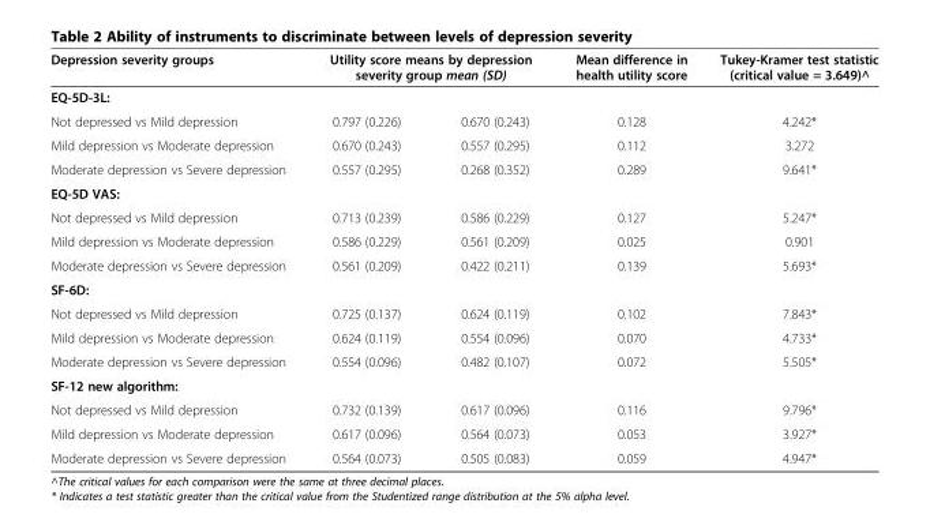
<table><thead><tr><td rowspan="2">Depression severity groups EQ-5D-3L:</td><td colspan="2">Utility score means by depression severity group mean (SD)</td><td rowspan="2">Mean difference in health utility score</td><td rowspan="2">Tukey-Kramer test statistic (critical value = 3.649)^</td></tr><tr><td></td><td></td></tr></thead><tbody><tr><td>Not depressed vs Mild depression</td><td>0.797 (0.226)</td><td>0.670 (0.243)</td><td>0.128</td><td>4.242*</td></tr><tr><td>Mild depression vs Moderate depression</td><td>0.670 (0.243)</td><td>0.557 (0.295)</td><td>0.112</td><td>3.272</td></tr><tr><td>Moderate depression vs Severe depression</td><td>0.557 (0.295)</td><td>0.268 (0.352)</td><td>0.289</td><td>9.641*</td></tr><tr><td colspan="5">EQ-5D VAS:</td></tr><tr><td>Not depressed vs Mild depression</td><td>0.713 (0.239)</td><td>0.586 (0.229)</td><td>0.127</td><td>5.247*</td></tr><tr><td>Mild depression vs Moderate depression</td><td>0.586 (0.229)</td><td>0.561 (0.209)</td><td>0.025</td><td>0.901</td></tr><tr><td>Moderate depression vs Severe depression</td><td>0.561 (0.209)</td><td>0.422 (0.211)</td><td>0.139</td><td>5.693*</td></tr><tr><td colspan="5">SF-6D:</td></tr><tr><td>Not depressed vs Mild depression</td><td>0.725 (0.137)</td><td>0.624 (0.119)</td><td>0.102</td><td>7.843*</td></tr><tr><td>Mild depression vs Moderate depression</td><td>0.624 (0.119)</td><td>0.554 (0.096)</td><td>0.070</td><td>4.733*</td></tr><tr><td>Moderate depression vs Severe depression</td><td>0.554 (0.096)</td><td>0.482 (0.107)</td><td>0.072</td><td>5.505*</td></tr><tr><td colspan="5">SF-12 new algorithm:</td></tr><tr><td>Not depressed vs Mild depression</td><td>0.732 (0.139)</td><td>0.617 (0.096)</td><td>0.116</td><td>9.796*</td></tr><tr><td>Mild depression vs Moderate depression</td><td>0.617 (0.096)</td><td>0.564 (0.073)</td><td>0.053</td><td>3.927*</td></tr><tr><td>Moderate depression vs Severe depression</td><td>0.564 (0.073)</td><td>0.505 (0.083)</td><td>0.059</td><td>4.947*</td></tr></tbody></table>